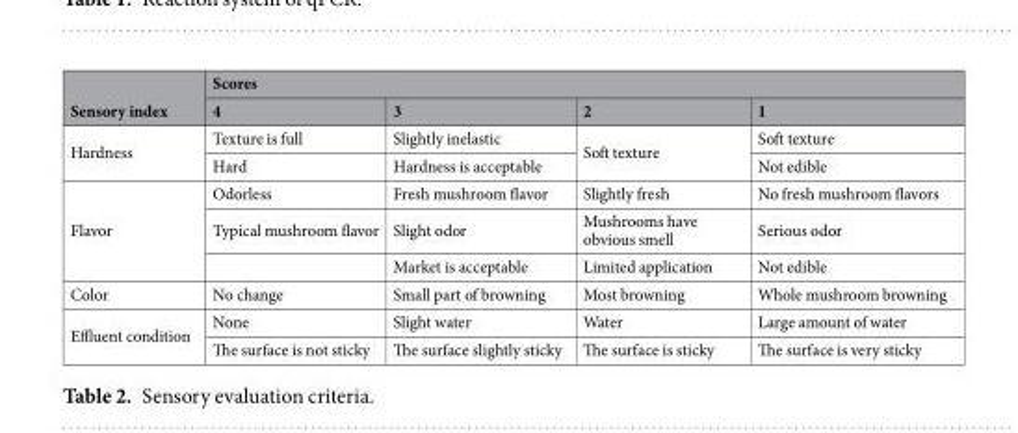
<table><thead><tr><td rowspan="2">Sensory index</td><td colspan="4">Scores</td></tr><tr><td>4</td><td>3</td><td>2</td><td>1</td></tr></thead><tbody><tr><td rowspan="2">Hardness</td><td>Texture is full</td><td>Slightly inelastic</td><td rowspan="2">Soft texture</td><td>Soft texture</td></tr><tr><td>Hard</td><td>Hardness is acceptable</td><td>Not edible</td></tr><tr><td rowspan="3">Flavor</td><td>Odorless</td><td>Fresh mushroom flavor</td><td>Slightly fresh</td><td>No fresh mushroom flavors</td></tr><tr><td>Typical mushroom flavor</td><td>Slight odor</td><td>Mushrooms have obvious smell</td><td>Serious odor</td></tr><tr><td></td><td>Market is acceptable</td><td>Limited application</td><td>Not edible</td></tr><tr><td>Color</td><td>No change</td><td>Small part of browning</td><td>Most browning</td><td>Whole mushroom browning</td></tr><tr><td rowspan="2">Effluent condition</td><td>None</td><td>Slight water</td><td>Water</td><td>Large amount of water</td></tr><tr><td>The surface is not sticky</td><td>The surface slightly sticky</td><td>The surface is sticky</td><td>The surface is very sticky</td></tr></tbody></table>